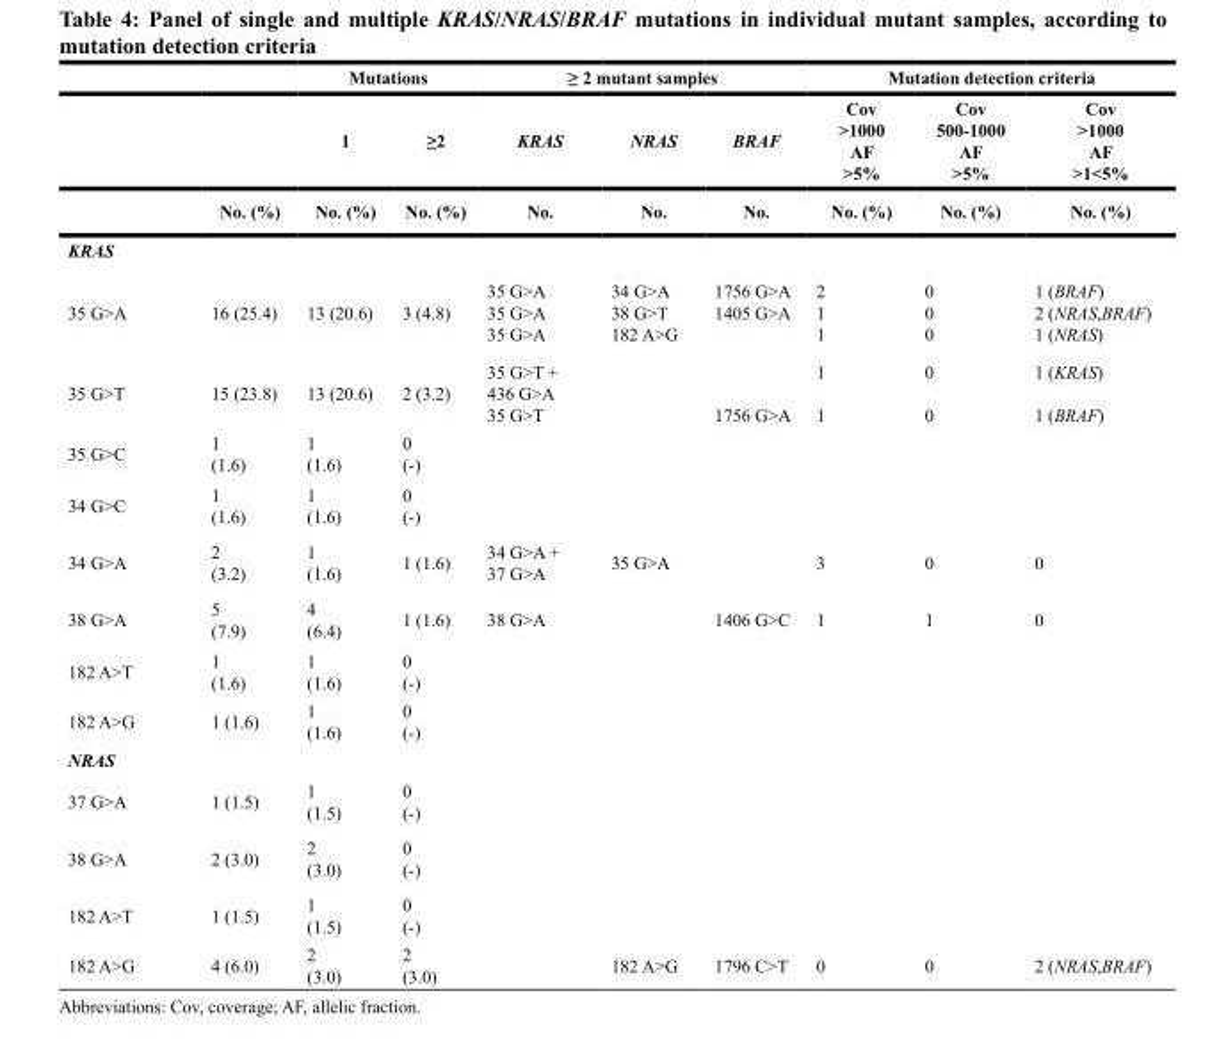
<table><thead><tr><td rowspan="3"></td><td rowspan="3">No. (%)</td><td colspan="2">Mutations</td><td colspan="3">≥ 2 mutant samples</td><td colspan="3">Mutation detection criteria</td></tr><tr><td rowspan="2">1 No. (%)</td><td rowspan="2">≥2 No. (%)</td><td rowspan="2">KRAS No.</td><td rowspan="2">NRAS No.</td><td rowspan="2">BRAF No.</td><td rowspan="2">Cov &gt;1000 AF &gt;5% No. (%)</td><td rowspan="2">Cov 500-1000 AF &gt;5% No. (%)</td><td rowspan="2">Cov &gt;1000 AF &gt;1&lt;5% No. (%)</td></tr><tr></tr></thead><tbody><tr><td colspan="10">KRAS</td></tr><tr><td>35 G&gt;A</td><td>16 (25.4)</td><td>13 (20.6)</td><td>3 (4.8)</td><td>35 G&gt;A 35 G&gt;A 35 G&gt;A</td><td>34 G&gt;A 38 G&gt;T 182 A&gt;G</td><td>1756 G&gt;A 1405 G&gt;A</td><td>2 1 1</td><td>0 0 0</td><td>1 (BRAF) 2 (NRAS,BRAF) 1 (NRAS)</td></tr><tr><td>35 G&gt;T</td><td>15 (23.8)</td><td>13 (20.6)</td><td>2 (3.2)</td><td>35 G&gt;T + 436 G&gt;A 35 G&gt;T</td><td></td><td>1756 G&gt;A</td><td>1 1</td><td>0 0</td><td>1 (KRAS) 1 (BRAF)</td></tr><tr><td>35 G&gt;C</td><td>1 (1.6)</td><td>1 (1.6)</td><td>0 (-)</td><td></td><td></td><td></td><td></td><td></td><td></td></tr><tr><td>34 G&gt;C</td><td>1 (1.6)</td><td>1 (1.6)</td><td>0 (-)</td><td></td><td></td><td></td><td></td><td></td><td></td></tr><tr><td>34 G&gt;A</td><td>2 (3.2)</td><td>1 (1.6)</td><td>1 (1.6)</td><td>34 G&gt;A + 37 G&gt;A</td><td>35 G&gt;A</td><td></td><td>3</td><td>0</td><td>0</td></tr><tr><td>38 G&gt;A</td><td>5 (7.9)</td><td>4 (6.4)</td><td>1 (1.6)</td><td>38 G&gt;A</td><td></td><td>1406 G&gt;C</td><td>1</td><td>1</td><td>0</td></tr><tr><td>182 A&gt;T</td><td>1 (1.6)</td><td>1 (1.6)</td><td>0 (-)</td><td></td><td></td><td></td><td></td><td></td><td></td></tr><tr><td>182 A&gt;G</td><td>1 (1.6)</td><td>1 (1.6)</td><td>0 (-)</td><td></td><td></td><td></td><td></td><td></td><td></td></tr><tr><td colspan="10">NRAS</td></tr><tr><td>37 G&gt;A</td><td>1 (1.5)</td><td>1 (1.5)</td><td>0 (-)</td><td></td><td></td><td></td><td></td><td></td><td></td></tr><tr><td>38 G&gt;A</td><td>2 (3.0)</td><td>2 (3.0)</td><td>0 (-)</td><td></td><td></td><td></td><td></td><td></td><td></td></tr><tr><td>182 A&gt;T</td><td>1 (1.5)</td><td>1 (1.5)</td><td>0 (-)</td><td></td><td></td><td></td><td></td><td></td><td></td></tr><tr><td>182 A&gt;G</td><td>4 (6.0)</td><td>2 (3.0)</td><td>2 (3.0)</td><td></td><td>182 A&gt;G</td><td>1796 C&gt;T</td><td>0</td><td>0</td><td>2 (NRAS,BRAF)</td></tr></tbody></table>